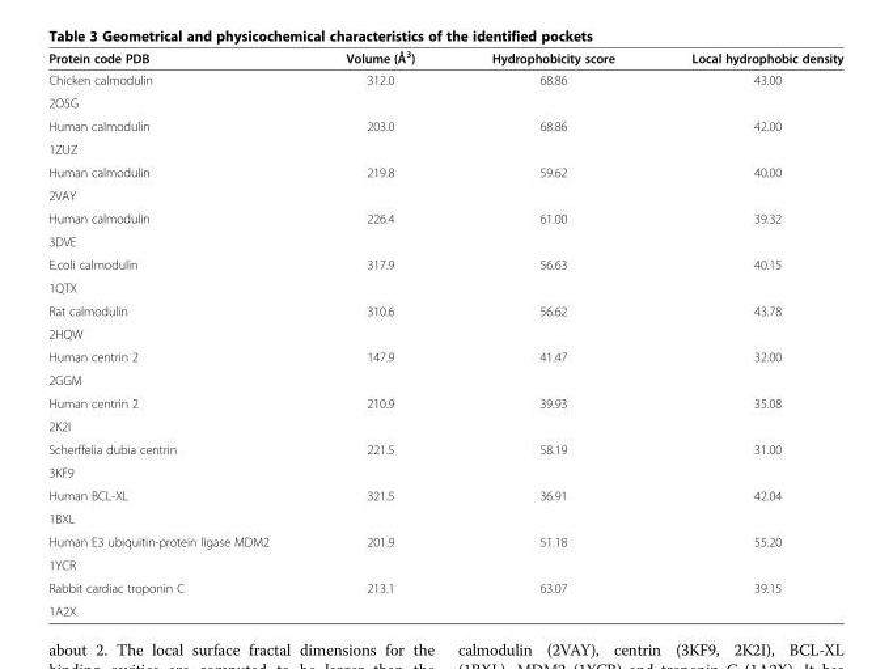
<table><thead><tr><td>Protein code PDB</td><td>Volume (Å<sup>3</sup>)</td><td>Hydrophobicity score</td><td>Local hydrophobic density</td></tr></thead><tbody><tr><td>Chicken calmodulin</td><td rowspan="2">312.0</td><td rowspan="2">68.86</td><td rowspan="2">43.00</td></tr><tr><td>2O5G</td></tr><tr><td>Human calmodulin</td><td rowspan="2">203.0</td><td rowspan="2">68.86</td><td rowspan="2">42.00</td></tr><tr><td>1ZUZ</td></tr><tr><td>Human calmodulin</td><td rowspan="2">219.8</td><td rowspan="2">59.62</td><td rowspan="2">40.00</td></tr><tr><td>2VAY</td></tr><tr><td>Human calmodulin</td><td rowspan="2">226.4</td><td rowspan="2">61.00</td><td rowspan="2">39.32</td></tr><tr><td>3DVE</td></tr><tr><td>E.coli calmodulin</td><td rowspan="2">317.9</td><td rowspan="2">56.63</td><td rowspan="2">40.15</td></tr><tr><td>1QTX</td></tr><tr><td>Rat calmodulin</td><td rowspan="2">310.6</td><td rowspan="2">56.62</td><td rowspan="2">43.78</td></tr><tr><td>2HQW</td></tr><tr><td>Human centrin 2</td><td rowspan="2">147.9</td><td rowspan="2">41.47</td><td rowspan="2">32.00</td></tr><tr><td>2GGM</td></tr><tr><td>Human centrin 2</td><td rowspan="2">210.9</td><td rowspan="2">39.93</td><td rowspan="2">35.08</td></tr><tr><td>2K2I</td></tr><tr><td>Scherffelia dubia centrin</td><td rowspan="2">221.5</td><td rowspan="2">58.19</td><td rowspan="2">31.00</td></tr><tr><td>3KF9</td></tr><tr><td>Human BCL-XL</td><td rowspan="2">321.5</td><td rowspan="2">36.91</td><td rowspan="2">42.04</td></tr><tr><td>1BXL</td></tr><tr><td>Human E3 ubiquitin-protein ligase MDM2</td><td>201.9</td><td>51.18</td><td rowspan="2">55.20</td></tr><tr><td colspan="3">1YCR</td></tr><tr><td>Rabbit cardiac troponin C</td><td>213.1</td><td>63.07</td><td>39.15</td></tr><tr><td>1A2X</td><td></td><td></td><td></td></tr></tbody></table>